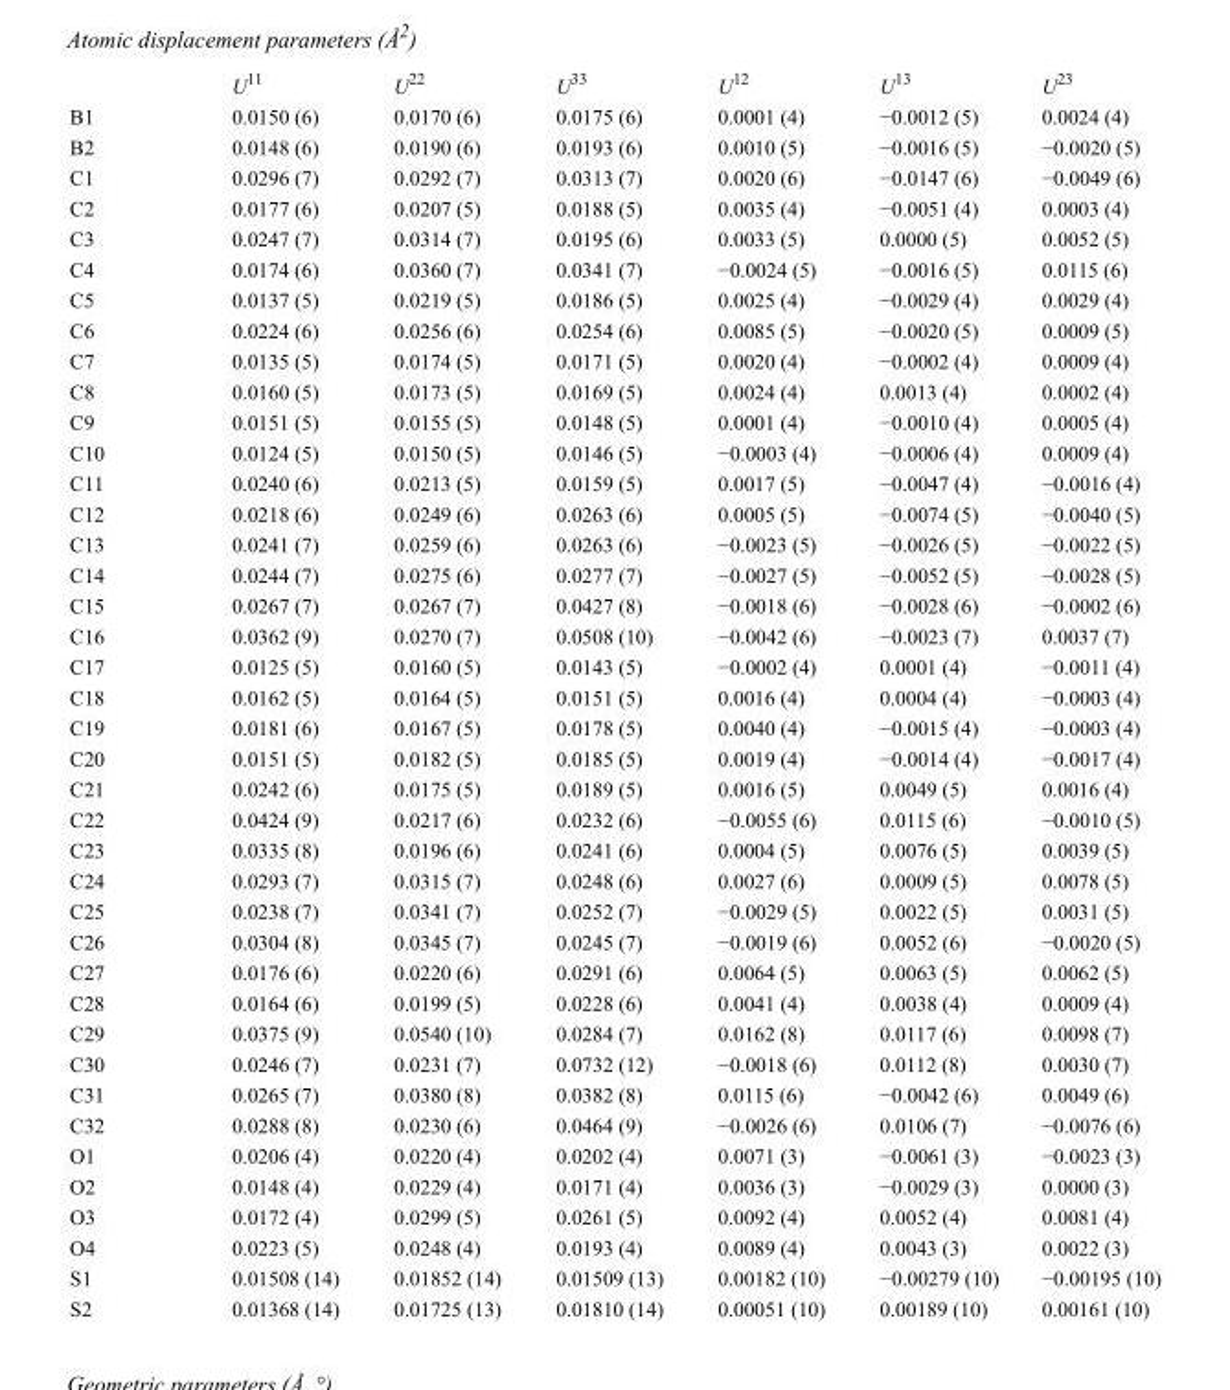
<table><thead><tr><td></td><td>U<sup>11</sup></td><td>U<sup>22</sup></td><td>U<sup>33</sup></td><td>U<sup>12</sup></td><td>U<sup>13</sup></td><td>U<sup>23</sup></td></tr></thead><tbody><tr><td>B1</td><td>0.0150 (6)</td><td>0.0170 (6)</td><td>0.0175 (6)</td><td>0.0001 (4)</td><td>−0.0012 (5)</td><td>0.0024 (4)</td></tr><tr><td>B2</td><td>0.0148 (6)</td><td>0.0190 (6)</td><td>0.0193 (6)</td><td>0.0010 (5)</td><td>−0.0016 (5)</td><td>−0.0020 (5)</td></tr><tr><td>C1</td><td>0.0296 (7)</td><td>0.0292 (7)</td><td>0.0313 (7)</td><td>0.0020 (6)</td><td>−0.0147 (6)</td><td>−0.0049 (6)</td></tr><tr><td>C2</td><td>0.0177 (6)</td><td>0.0207 (5)</td><td>0.0188 (5)</td><td>0.0035 (4)</td><td>−0.0051 (4)</td><td>0.0003 (4)</td></tr><tr><td>C3</td><td>0.0247 (7)</td><td>0.0314 (7)</td><td>0.0195 (6)</td><td>0.0033 (5)</td><td>0.0000 (5)</td><td>0.0052 (5)</td></tr><tr><td>C4</td><td>0.0174 (6)</td><td>0.0360 (7)</td><td>0.0341 (7)</td><td>−0.0024 (5)</td><td>−0.0016 (5)</td><td>0.0115 (6)</td></tr><tr><td>C5</td><td>0.0137 (5)</td><td>0.0219 (5)</td><td>0.0186 (5)</td><td>0.0025 (4)</td><td>−0.0029 (4)</td><td>0.0029 (4)</td></tr><tr><td>C6</td><td>0.0224 (6)</td><td>0.0256 (6)</td><td>0.0254 (6)</td><td>0.0085 (5)</td><td>−0.0020 (5)</td><td>0.0009 (5)</td></tr><tr><td>C7</td><td>0.0135 (5)</td><td>0.0174 (5)</td><td>0.0171 (5)</td><td>0.0020 (4)</td><td>−0.0002 (4)</td><td>0.0009 (4)</td></tr><tr><td>C8</td><td>0.0160 (5)</td><td>0.0173 (5)</td><td>0.0169 (5)</td><td>0.0024 (4)</td><td>0.0013 (4)</td><td>0.0002 (4)</td></tr><tr><td>C9</td><td>0.0151 (5)</td><td>0.0155 (5)</td><td>0.0148 (5)</td><td>0.0001 (4)</td><td>−0.0010 (4)</td><td>0.0005 (4)</td></tr><tr><td>C10</td><td>0.0124 (5)</td><td>0.0150 (5)</td><td>0.0146 (5)</td><td>−0.0003 (4)</td><td>−0.0006 (4)</td><td>0.0009 (4)</td></tr><tr><td>C11</td><td>0.0240 (6)</td><td>0.0213 (5)</td><td>0.0159 (5)</td><td>0.0017 (5)</td><td>−0.0047 (4)</td><td>−0.0016 (4)</td></tr><tr><td>C12</td><td>0.0218 (6)</td><td>0.0249 (6)</td><td>0.0263 (6)</td><td>0.0005 (5)</td><td>−0.0074 (5)</td><td>−0.0040 (5)</td></tr><tr><td>C13</td><td>0.0241 (7)</td><td>0.0259 (6)</td><td>0.0263 (6)</td><td>−0.0023 (5)</td><td>−0.0026 (5)</td><td>−0.0022 (5)</td></tr><tr><td>C14</td><td>0.0244 (7)</td><td>0.0275 (6)</td><td>0.0277 (7)</td><td>−0.0027 (5)</td><td>−0.0052 (5)</td><td>−0.0028 (5)</td></tr><tr><td>C15</td><td>0.0267 (7)</td><td>0.0267 (7)</td><td>0.0427 (8)</td><td>−0.0018 (6)</td><td>−0.0028 (6)</td><td>−0.0002 (6)</td></tr><tr><td>C16</td><td>0.0362 (9)</td><td>0.0270 (7)</td><td>0.0508 (10)</td><td>−0.0042 (6)</td><td>−0.0023 (7)</td><td>0.0037 (7)</td></tr><tr><td>C17</td><td>0.0125 (5)</td><td>0.0160 (5)</td><td>0.0143 (5)</td><td>−0.0002 (4)</td><td>0.0001 (4)</td><td>−0.0011 (4)</td></tr><tr><td>C18</td><td>0.0162 (5)</td><td>0.0164 (5)</td><td>0.0151 (5)</td><td>0.0016 (4)</td><td>0.0004 (4)</td><td>−0.0003 (4)</td></tr><tr><td>C19</td><td>0.0181 (6)</td><td>0.0167 (5)</td><td>0.0178 (5)</td><td>0.0040 (4)</td><td>−0.0015 (4)</td><td>−0.0003 (4)</td></tr><tr><td>C20</td><td>0.0151 (5)</td><td>0.0182 (5)</td><td>0.0185 (5)</td><td>0.0019 (4)</td><td>−0.0014 (4)</td><td>−0.0017 (4)</td></tr><tr><td>C21</td><td>0.0242 (6)</td><td>0.0175 (5)</td><td>0.0189 (5)</td><td>0.0016 (5)</td><td>0.0049 (5)</td><td>0.0016 (4)</td></tr><tr><td>C22</td><td>0.0424 (9)</td><td>0.0217 (6)</td><td>0.0232 (6)</td><td>−0.0055 (6)</td><td>0.0115 (6)</td><td>−0.0010 (5)</td></tr><tr><td>C23</td><td>0.0335 (8)</td><td>0.0196 (6)</td><td>0.0241 (6)</td><td>0.0004 (5)</td><td>0.0076 (5)</td><td>0.0039 (5)</td></tr><tr><td>C24</td><td>0.0293 (7)</td><td>0.0315 (7)</td><td>0.0248 (6)</td><td>0.0027 (6)</td><td>0.0009 (5)</td><td>0.0078 (5)</td></tr><tr><td>C25</td><td>0.0238 (7)</td><td>0.0341 (7)</td><td>0.0252 (7)</td><td>−0.0029 (5)</td><td>0.0022 (5)</td><td>0.0031 (5)</td></tr><tr><td>C26</td><td>0.0304 (8)</td><td>0.0345 (7)</td><td>0.0245 (7)</td><td>−0.0019 (6)</td><td>0.0052 (6)</td><td>−0.0020 (5)</td></tr><tr><td>C27</td><td>0.0176 (6)</td><td>0.0220 (6)</td><td>0.0291 (6)</td><td>0.0064 (5)</td><td>0.0063 (5)</td><td>0.0062 (5)</td></tr><tr><td>C28</td><td>0.0164 (6)</td><td>0.0199 (5)</td><td>0.0228 (6)</td><td>0.0041 (4)</td><td>0.0038 (4)</td><td>0.0009 (4)</td></tr><tr><td>C29</td><td>0.0375 (9)</td><td>0.0540 (10)</td><td>0.0284 (7)</td><td>0.0162 (8)</td><td>0.0117 (6)</td><td>0.0098 (7)</td></tr><tr><td>C30</td><td>0.0246 (7)</td><td>0.0231 (7)</td><td>0.0732 (12)</td><td>−0.0018 (6)</td><td>0.0112 (8)</td><td>0.0030 (7)</td></tr><tr><td>C31</td><td>0.0265 (7)</td><td>0.0380 (8)</td><td>0.0382 (8)</td><td>0.0115 (6)</td><td>−0.0042 (6)</td><td>0.0049 (6)</td></tr><tr><td>C32</td><td>0.0288 (8)</td><td>0.0230 (6)</td><td>0.0464 (9)</td><td>−0.0026 (6)</td><td>0.0106 (7)</td><td>−0.0076 (6)</td></tr><tr><td>O1</td><td>0.0206 (4)</td><td>0.0220 (4)</td><td>0.0202 (4)</td><td>0.0071 (3)</td><td>−0.0061 (3)</td><td>−0.0023 (3)</td></tr><tr><td>O2</td><td>0.0148 (4)</td><td>0.0229 (4)</td><td>0.0171 (4)</td><td>0.0036 (3)</td><td>−0.0029 (3)</td><td>0.0000 (3)</td></tr><tr><td>O3</td><td>0.0172 (4)</td><td>0.0299 (5)</td><td>0.0261 (5)</td><td>0.0092 (4)</td><td>0.0052 (4)</td><td>0.0081 (4)</td></tr><tr><td>O4</td><td>0.0223 (5)</td><td>0.0248 (4)</td><td>0.0193 (4)</td><td>0.0089 (4)</td><td>0.0043 (3)</td><td>0.0022 (3)</td></tr><tr><td>S1</td><td>0.01508 (14)</td><td>0.01852 (14)</td><td>0.01509 (13)</td><td>0.00182 (10)</td><td>−0.00279 (10)</td><td>−0.00195 (10)</td></tr><tr><td>S2</td><td>0.01368 (14)</td><td>0.01725 (13)</td><td>0.01810 (14)</td><td>0.00051 (10)</td><td>0.00189 (10)</td><td>0.00161 (10)</td></tr></tbody></table>